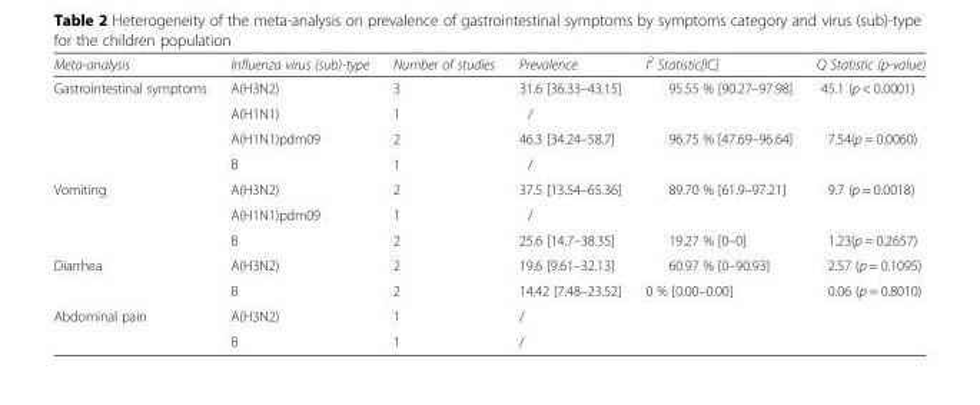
<table><thead><tr><td>Meta-analysis</td><td>Influenza virus (sub)-type</td><td>Number of studies</td><td>Prevalence</td><td>I<sup>2</sup> Statistic[IC]</td><td>Q Statistic (p-value)</td></tr></thead><tbody><tr><td rowspan="4">Gastrointestinal symptoms</td><td>A(H3N2)</td><td>3</td><td>31.6 [36.33–43.15]</td><td>95.55 % [90.27–97.98]</td><td>45.1 (p &lt; 0.0001)</td></tr><tr><td>A(H1N1)</td><td>1</td><td>/</td><td></td><td></td></tr><tr><td>A(H1N1)pdm09</td><td>2</td><td>46.3 [34.24–58.7]</td><td>96.75 % [47.69–96.64]</td><td>7.54(p = 0.0060)</td></tr><tr><td>B</td><td>1</td><td>/</td><td></td><td></td></tr><tr><td rowspan="3">Vomiting</td><td>A(H3N2)</td><td>2</td><td>37.5 [13.54–65.36]</td><td>89.70 % [61.9–97.21]</td><td>9.7 (p = 0.0018)</td></tr><tr><td>A(H1N1)pdm09</td><td>1</td><td>/</td><td></td><td></td></tr><tr><td>B</td><td>2</td><td>25.6 [14.7–38.35]</td><td>19.27 % [0–0]</td><td>1.23(p = 0.2657)</td></tr><tr><td rowspan="2">Diarrhea</td><td>A(H3N2)</td><td>2</td><td>19.6 [9.61–32.13]</td><td>60.97 % [0–90.93]</td><td>2.57 (p = 0.1095)</td></tr><tr><td>B</td><td>2</td><td>14.42 [7.48–23.52]</td><td>0 % [0.00–0.00]</td><td>0.06 (p = 0.8010)</td></tr><tr><td rowspan="2">Abdominal pain</td><td>A(H3N2)</td><td>1</td><td>/</td><td></td><td></td></tr><tr><td>B</td><td>1</td><td>/</td><td></td><td></td></tr></tbody></table>